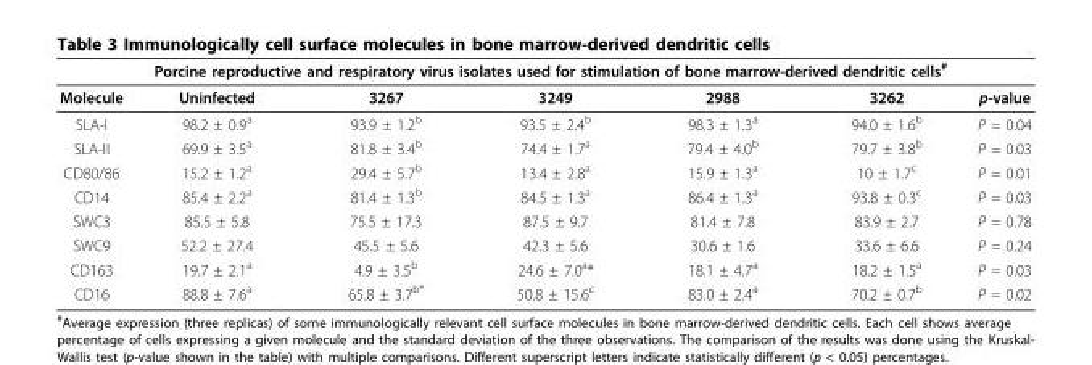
<table><thead><tr><td rowspan="2">Molecule</td><td colspan="5">Porcine reproductive and respiratory virus isolates used for stimulation of bone marrow-derived dendritic cells<sup>#</sup></td><td rowspan="2">p-value</td></tr><tr><td>Uninfected</td><td>3267</td><td>3249</td><td>2988</td><td>3262</td></tr></thead><tbody><tr><td>SLA-I</td><td>98.2 ± 0.9<sup>a</sup></td><td>93.9 ± 1.2<sup>b</sup></td><td>93.5 ± 2.4<sup>b</sup></td><td>98.3 ± 1.3<sup>a</sup></td><td>94.0 ± 1.6<sup>b</sup></td><td>P = 0.04</td></tr><tr><td>SLA-II</td><td>69.9 ± 3.5<sup>a</sup></td><td>81.8 ± 3.4<sup>b</sup></td><td>74.4 ± 1.7<sup>a</sup></td><td>79.4 ± 4.0<sup>b</sup></td><td>79.7 ± 3.8<sup>b</sup></td><td>P = 0.03</td></tr><tr><td>CD80/86</td><td>15.2 ± 1.2<sup>a</sup></td><td>29.4 ± 5.7<sup>b</sup></td><td>13.4 ± 2.8<sup>a</sup></td><td>15.9 ± 1.3<sup>a</sup></td><td>10 ± 1.7<sup>c</sup></td><td>P = 0.01</td></tr><tr><td>CD14</td><td>85.4 ± 2.2<sup>a</sup></td><td>81.4 ± 1.3<sup>b</sup></td><td>84.5 ± 1.3<sup>a</sup></td><td>86.4 ± 1.3<sup>a</sup></td><td>93.8 ± 0.3<sup>c</sup></td><td>P = 0.03</td></tr><tr><td>SWC3</td><td>85.5 ± 5.8</td><td>75.5 ± 17.3</td><td>87.5 ± 9.7</td><td>81.4 ± 7.8</td><td>83.9 ± 2.7</td><td>P = 0.78</td></tr><tr><td>SWC9</td><td>52.2 ± 27.4</td><td>45.5 ± 5.6</td><td>42.3 ± 5.6</td><td>30.6 ± 1.6</td><td>33.6 ± 6.6</td><td>P = 0.24</td></tr><tr><td>CD163</td><td>19.7 ± 2.1<sup>a</sup></td><td>4.9 ± 3.5<sup>b</sup></td><td>24.6 ± 7.0<sup>a</sup>*</td><td>18.1 ± 4.7<sup>a</sup></td><td>18.2 ± 1.5<sup>a</sup></td><td>P = 0.03</td></tr><tr><td>CD16</td><td>88.8 ± 7.6<sup>a</sup></td><td>65.8 ± 3.7<sup>b*</sup></td><td>50.8 ± 15.6<sup>c</sup></td><td>83.0 ± 2.4<sup>a</sup></td><td>70.2 ± 0.7<sup>b</sup></td><td>P = 0.02</td></tr></tbody></table>